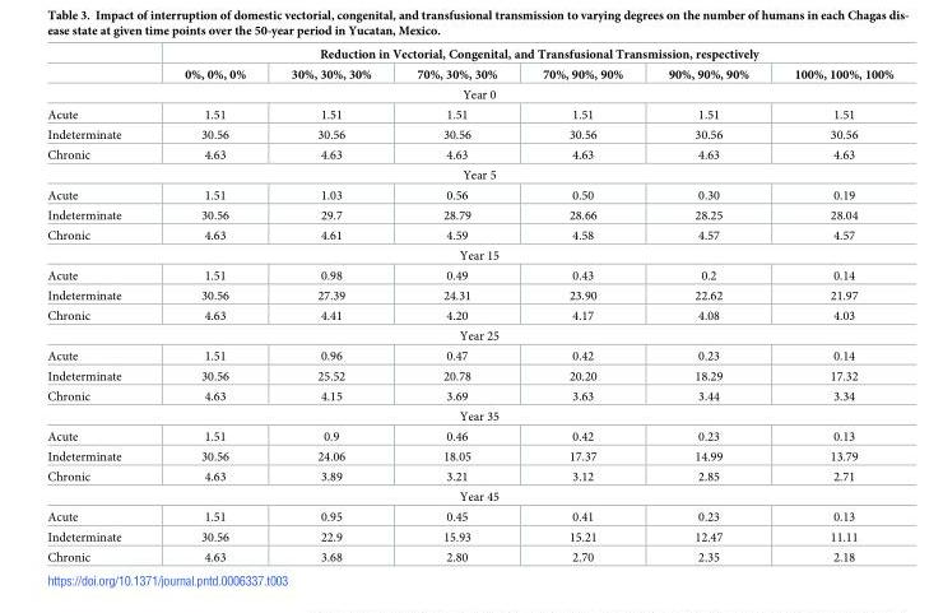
<table><thead><tr><td rowspan="2"></td><td colspan="6">Reduction in Vectorial, Congenital, and Transfusional Transmission, respectively</td></tr><tr><td>0%, 0%, 0%</td><td>30%, 30%, 30%</td><td>70%, 30%, 30%</td><td>70%, 90%, 90%</td><td>90%, 90%, 90%</td><td>100%, 100%, 100%</td></tr></thead><tbody><tr><td colspan="7">Year 0</td></tr><tr><td>Acute</td><td>1.51</td><td>1.51</td><td>1.51</td><td>1.51</td><td>1.51</td><td>1.51</td></tr><tr><td>Indeterminate</td><td>30.56</td><td>30.56</td><td>30.56</td><td>30.56</td><td>30.56</td><td>30.56</td></tr><tr><td>Chronic</td><td>4.63</td><td>4.63</td><td>4.63</td><td>4.63</td><td>4.63</td><td>4.63</td></tr><tr><td colspan="7">Year 5</td></tr><tr><td>Acute</td><td>1.51</td><td>1.03</td><td>0.56</td><td>0.50</td><td>0.30</td><td>0.19</td></tr><tr><td>Indeterminate</td><td>30.56</td><td>29.7</td><td>28.79</td><td>28.66</td><td>28.25</td><td>28.04</td></tr><tr><td>Chronic</td><td>4.63</td><td>4.61</td><td>4.59</td><td>4.58</td><td>4.57</td><td>4.57</td></tr><tr><td colspan="7">Year 15</td></tr><tr><td>Acute</td><td>1.51</td><td>0.98</td><td>0.49</td><td>0.43</td><td>0.2</td><td>0.14</td></tr><tr><td>Indeterminate</td><td>30.56</td><td>27.39</td><td>24.31</td><td>23.90</td><td>22.62</td><td>21.97</td></tr><tr><td>Chronic</td><td>4.63</td><td>4.41</td><td>4.20</td><td>4.17</td><td>4.08</td><td>4.03</td></tr><tr><td colspan="7">Year 25</td></tr><tr><td>Acute</td><td>1.51</td><td>0.96</td><td>0.47</td><td>0.42</td><td>0.23</td><td>0.14</td></tr><tr><td>Indeterminate</td><td>30.56</td><td>25.52</td><td>20.78</td><td>20.20</td><td>18.29</td><td>17.32</td></tr><tr><td>Chronic</td><td>4.63</td><td>4.15</td><td>3.69</td><td>3.63</td><td>3.44</td><td>3.34</td></tr><tr><td colspan="7">Year 35</td></tr><tr><td>Acute</td><td>1.51</td><td>0.9</td><td>0.46</td><td>0.42</td><td>0.23</td><td>0.13</td></tr><tr><td>Indeterminate</td><td>30.56</td><td>24.06</td><td>18.05</td><td>17.37</td><td>14.99</td><td>13.79</td></tr><tr><td>Chronic</td><td>4.63</td><td>3.89</td><td>3.21</td><td>3.12</td><td>2.85</td><td>2.71</td></tr><tr><td colspan="7">Year 45</td></tr><tr><td>Acute</td><td>1.51</td><td>0.95</td><td>0.45</td><td>0.41</td><td>0.23</td><td>0.13</td></tr><tr><td>Indeterminate</td><td>30.56</td><td>22.9</td><td>15.93</td><td>15.21</td><td>12.47</td><td>11.11</td></tr><tr><td>Chronic</td><td>4.63</td><td>3.68</td><td>2.80</td><td>2.70</td><td>2.35</td><td>2.18</td></tr></tbody></table>